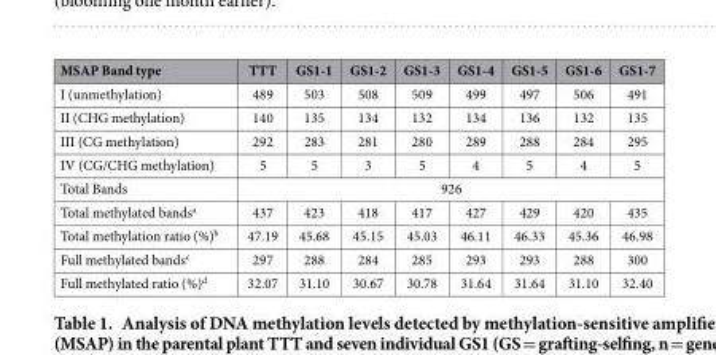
<table><thead><tr><td>MSAP Band type</td><td>TTT</td><td>GS1-1</td><td>GS1-2</td><td>GS1-3</td><td>GS1-4</td><td>GS1-5</td><td>GS1-6</td><td>GS1-7</td></tr></thead><tbody><tr><td>I (unmethylation)</td><td>489</td><td>503</td><td>508</td><td>509</td><td>499</td><td>497</td><td>506</td><td>491</td></tr><tr><td>II (CHG methylation)</td><td>140</td><td>135</td><td>134</td><td>132</td><td>134</td><td>136</td><td>132</td><td>135</td></tr><tr><td>III (CG methylation)</td><td>292</td><td>283</td><td>281</td><td>280</td><td>289</td><td>288</td><td>284</td><td>295</td></tr><tr><td>IV (CG/CHG methylation)</td><td>5</td><td>5</td><td>3</td><td>5</td><td>4</td><td>5</td><td>4</td><td>5</td></tr><tr><td>Total Bands</td><td colspan="8">926</td></tr><tr><td>Total methylated bands<sup>a</sup></td><td>437</td><td>423</td><td>418</td><td>417</td><td>427</td><td>429</td><td>420</td><td>435</td></tr><tr><td>Total methylation ratio (%)<sup>b</sup></td><td>47.19</td><td>45.68</td><td>45.15</td><td>45.03</td><td>46.11</td><td>46.33</td><td>45.36</td><td>46.98</td></tr><tr><td>Full methylated bands<sup>c</sup></td><td>297</td><td>288</td><td>284</td><td>285</td><td>293</td><td>293</td><td>288</td><td>300</td></tr><tr><td>Full methylated ratio (%)<sup>d</sup></td><td>32.07</td><td>31.10</td><td>30.67</td><td>30.78</td><td>31.64</td><td>31.64</td><td>31.10</td><td>32.40</td></tr></tbody></table>